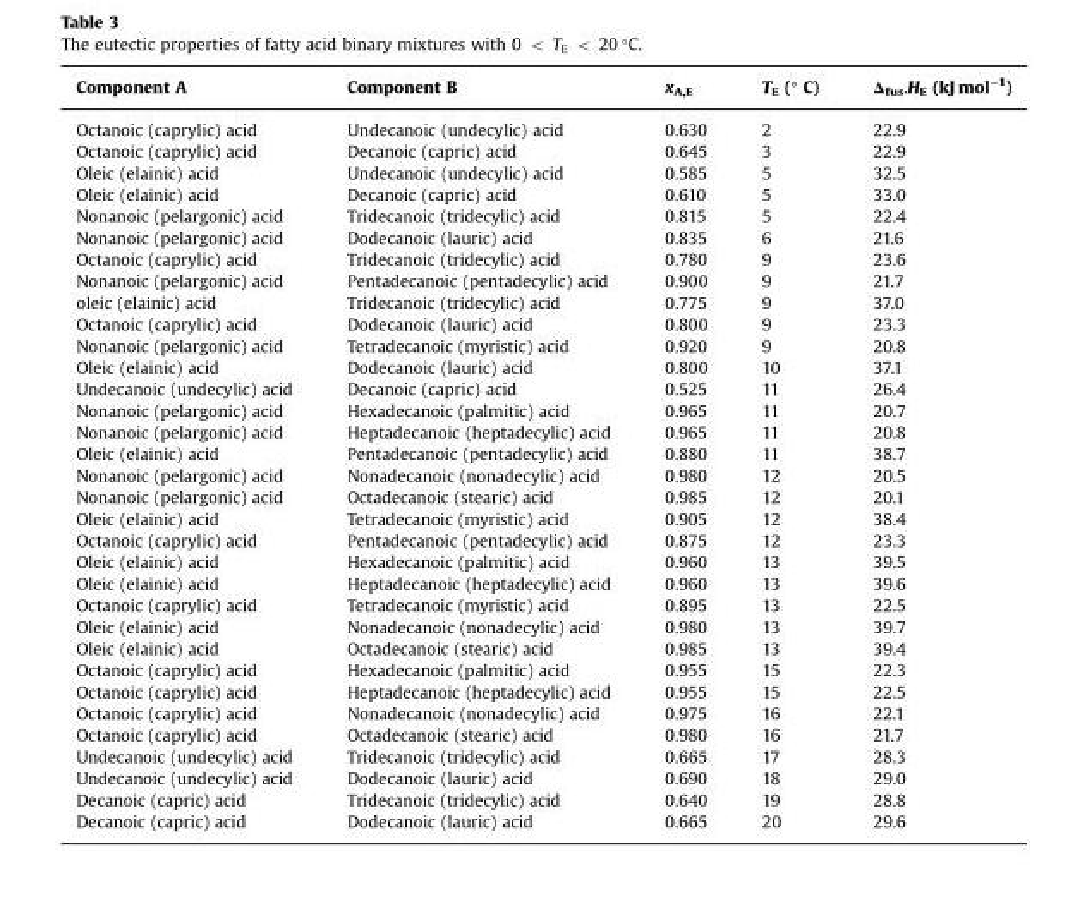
<table><thead><tr><td>Component A</td><td>Component B</td><td>x<sub>A,E</sub></td><td>T<sub>E</sub> (° C)</td><td>Δ<sub>fus</sub>.H<sub>E</sub> (kJ mol<sup>−1</sup>)</td></tr></thead><tbody><tr><td>Octanoic (caprylic) acid</td><td>Undecanoic (undecylic) acid</td><td>0.630</td><td>2</td><td>22.9</td></tr><tr><td>Octanoic (caprylic) acid</td><td>Decanoic (capric) acid</td><td>0.645</td><td>3</td><td>22.9</td></tr><tr><td>Oleic (elainic) acid</td><td>Undecanoic (undecylic) acid</td><td>0.585</td><td>5</td><td>32.5</td></tr><tr><td>Oleic (elainic) acid</td><td>Decanoic (capric) acid</td><td>0.610</td><td>5</td><td>33.0</td></tr><tr><td>Nonanoic (pelargonic) acid</td><td>Tridecanoic (tridecylic) acid</td><td>0.815</td><td>5</td><td>22.4</td></tr><tr><td>Nonanoic (pelargonic) acid</td><td>Dodecanoic (lauric) acid</td><td>0.835</td><td>6</td><td>21.6</td></tr><tr><td>Octanoic (caprylic) acid</td><td>Tridecanoic (tridecylic) acid</td><td>0.780</td><td>9</td><td>23.6</td></tr><tr><td>Nonanoic (pelargonic) acid</td><td>Pentadecanoic (pentadecylic) acid</td><td>0.900</td><td>9</td><td>21.7</td></tr><tr><td>oleic (elainic) acid</td><td>Tridecanoic (tridecylic) acid</td><td>0.775</td><td>9</td><td>37.0</td></tr><tr><td>Octanoic (caprylic) acid</td><td>Dodecanoic (lauric) acid</td><td>0.800</td><td>9</td><td>23.3</td></tr><tr><td>Nonanoic (pelargonic) acid</td><td>Tetradecanoic (myristic) acid</td><td>0.920</td><td>9</td><td>20.8</td></tr><tr><td>Oleic (elainic) acid</td><td>Dodecanoic (lauric) acid</td><td>0.800</td><td>10</td><td>37.1</td></tr><tr><td>Undecanoic (undecylic) acid</td><td>Decanoic (capric) acid</td><td>0.525</td><td>11</td><td>26.4</td></tr><tr><td>Nonanoic (pelargonic) acid</td><td>Hexadecanoic (palmitic) acid</td><td>0.965</td><td>11</td><td>20.7</td></tr><tr><td>Nonanoic (pelargonic) acid</td><td>Heptadecanoic (heptadecylic) acid</td><td>0.965</td><td>11</td><td>20.8</td></tr><tr><td>Oleic (elainic) acid</td><td>Pentadecanoic (pentadecylic) acid</td><td>0.880</td><td>11</td><td>38.7</td></tr><tr><td>Nonanoic (pelargonic) acid</td><td>Nonadecanoic (nonadecylic) acid</td><td>0.980</td><td>12</td><td>20.5</td></tr><tr><td>Nonanoic (pelargonic) acid</td><td>Octadecanoic (stearic) acid</td><td>0.985</td><td>12</td><td>20.1</td></tr><tr><td>Oleic (elainic) acid</td><td>Tetradecanoic (myristic) acid</td><td>0.905</td><td>12</td><td>38.4</td></tr><tr><td>Octanoic (caprylic) acid</td><td>Pentadecanoic (pentadecylic) acid</td><td>0.875</td><td>12</td><td>23.3</td></tr><tr><td>Oleic (elainic) acid</td><td>Hexadecanoic (palmitic) acid</td><td>0.960</td><td>13</td><td>39.5</td></tr><tr><td>Oleic (elainic) acid</td><td>Heptadecanoic (heptadecylic) acid</td><td>0.960</td><td>13</td><td>39.6</td></tr><tr><td>Octanoic (caprylic) acid</td><td>Tetradecanoic (myristic) acid</td><td>0.895</td><td>13</td><td>22.5</td></tr><tr><td>Oleic (elainic) acid</td><td>Nonadecanoic (nonadecylic) acid</td><td>0.980</td><td>13</td><td>39.7</td></tr><tr><td>Oleic (elainic) acid</td><td>Octadecanoic (stearic) acid</td><td>0.985</td><td>13</td><td>39.4</td></tr><tr><td>Octanoic (caprylic) acid</td><td>Hexadecanoic (palmitic) acid</td><td>0.955</td><td>15</td><td>22.3</td></tr><tr><td>Octanoic (caprylic) acid</td><td>Heptadecanoic (heptadecylic) acid</td><td>0.955</td><td>15</td><td>22.5</td></tr><tr><td>Octanoic (caprylic) acid</td><td>Nonadecanoic (nonadecylic) acid</td><td>0.975</td><td>16</td><td>22.1</td></tr><tr><td>Octanoic (caprylic) acid</td><td>Octadecanoic (stearic) acid</td><td>0.980</td><td>16</td><td>21.7</td></tr><tr><td>Undecanoic (undecylic) acid</td><td>Tridecanoic (tridecylic) acid</td><td>0.665</td><td>17</td><td>28.3</td></tr><tr><td>Undecanoic (undecylic) acid</td><td>Dodecanoic (lauric) acid</td><td>0.690</td><td>18</td><td>29.0</td></tr><tr><td>Decanoic (capric) acid</td><td>Tridecanoic (tridecylic) acid</td><td>0.640</td><td>19</td><td>28.8</td></tr><tr><td>Decanoic (capric) acid</td><td>Dodecanoic (lauric) acid</td><td>0.665</td><td>20</td><td>29.6</td></tr></tbody></table>